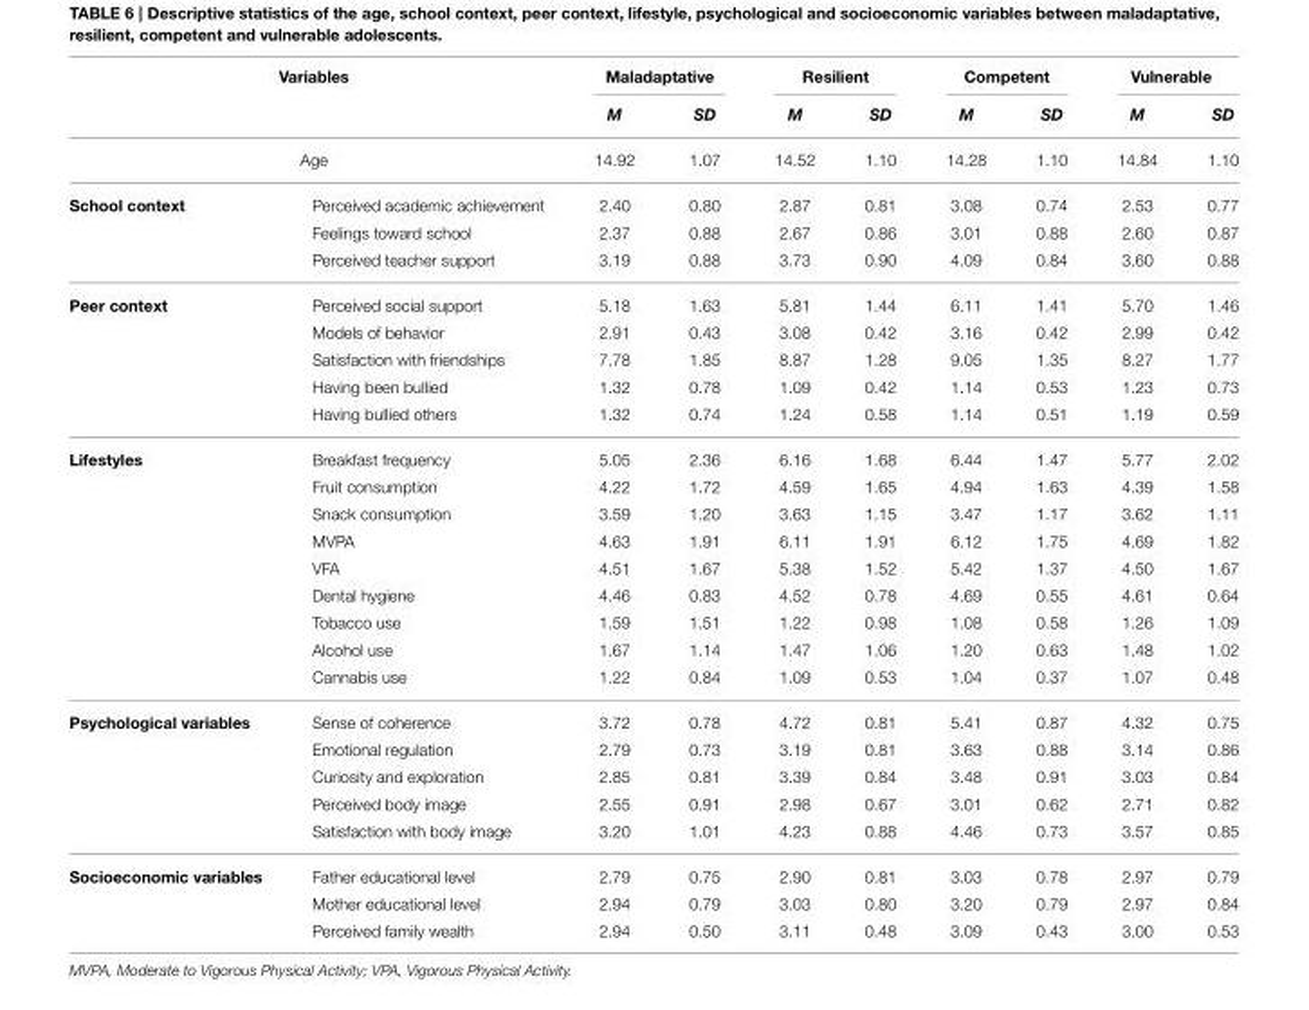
<table><thead><tr><td colspan="2">Variables</td><td colspan="2">Maladaptative</td><td colspan="2">Resilient</td><td colspan="2">Competent</td><td colspan="2">Vulnerable</td></tr><tr><td></td><td></td><td>M</td><td>SD</td><td>M</td><td>SD</td><td>M</td><td>SD</td><td>M</td><td>SD</td></tr></thead><tbody><tr><td colspan="2">Age</td><td>14.92</td><td>1.07</td><td>14.52</td><td>1.10</td><td>14.28</td><td>1.10</td><td>14.84</td><td>1.10</td></tr><tr><td rowspan="3">School context</td><td>Perceived academic achievement</td><td>2.40</td><td>0.80</td><td>2.87</td><td>0.81</td><td>3.08</td><td>0.74</td><td>2.53</td><td>0.77</td></tr><tr><td>Feelings toward school</td><td>2.37</td><td>0.88</td><td>2.67</td><td>0.86</td><td>3.01</td><td>0.88</td><td>2.60</td><td>0.87</td></tr><tr><td>Perceived teacher support</td><td>3.19</td><td>0.88</td><td>3.73</td><td>0.90</td><td>4.09</td><td>0.84</td><td>3.60</td><td>0.88</td></tr><tr><td rowspan="5">Peer context</td><td>Perceived social support</td><td>5.18</td><td>1.63</td><td>5.81</td><td>1.44</td><td>6.11</td><td>1.41</td><td>5.70</td><td>1.46</td></tr><tr><td>Models of behavior</td><td>2.91</td><td>0.43</td><td>3.08</td><td>0.42</td><td>3.16</td><td>0.42</td><td>2.99</td><td>0.42</td></tr><tr><td>Satisfaction with friendships</td><td>7.78</td><td>1.85</td><td>8.87</td><td>1.28</td><td>9.05</td><td>1.35</td><td>8.27</td><td>1.77</td></tr><tr><td>Having been bullied</td><td>1.32</td><td>0.78</td><td>1.09</td><td>0.42</td><td>1.14</td><td>0.53</td><td>1.23</td><td>0.73</td></tr><tr><td>Having bullied others</td><td>1.32</td><td>0.74</td><td>1.24</td><td>0.58</td><td>1.14</td><td>0.51</td><td>1.19</td><td>0.59</td></tr><tr><td rowspan="9">Lifestyles</td><td>Breakfast frequency</td><td>5.05</td><td>2.36</td><td>6.16</td><td>1.68</td><td>6.44</td><td>1.47</td><td>5.77</td><td>2.02</td></tr><tr><td>Fruit consumption</td><td>4.22</td><td>1.72</td><td>4.59</td><td>1.65</td><td>4.94</td><td>1.63</td><td>4.39</td><td>1.58</td></tr><tr><td>Snack consumption</td><td>3.59</td><td>1.20</td><td>3.63</td><td>1.15</td><td>3.47</td><td>1.17</td><td>3.62</td><td>1.11</td></tr><tr><td>MVPA</td><td>4.63</td><td>1.91</td><td>6.11</td><td>1.91</td><td>6.12</td><td>1.75</td><td>4.69</td><td>1.82</td></tr><tr><td>VFA</td><td>4.51</td><td>1.67</td><td>5.38</td><td>1.52</td><td>5.42</td><td>1.37</td><td>4.50</td><td>1.67</td></tr><tr><td>Dental hygiene</td><td>4.46</td><td>0.83</td><td>4.52</td><td>0.78</td><td>4.69</td><td>0.55</td><td>4.61</td><td>0.64</td></tr><tr><td>Tobacco use</td><td>1.59</td><td>1.51</td><td>1.22</td><td>0.98</td><td>1.08</td><td>0.58</td><td>1.26</td><td>1.09</td></tr><tr><td>Alcohol use</td><td>1.67</td><td>1.14</td><td>1.47</td><td>1.06</td><td>1.20</td><td>0.63</td><td>1.48</td><td>1.02</td></tr><tr><td>Cannabis use</td><td>1.22</td><td>0.84</td><td>1.09</td><td>0.53</td><td>1.04</td><td>0.37</td><td>1.07</td><td>0.48</td></tr><tr><td rowspan="5">Psychological variables</td><td>Sense of coherence</td><td>3.72</td><td>0.78</td><td>4.72</td><td>0.81</td><td>5.41</td><td>0.87</td><td>4.32</td><td>0.75</td></tr><tr><td>Emotional regulation</td><td>2.79</td><td>0.73</td><td>3.19</td><td>0.81</td><td>3.63</td><td>0.88</td><td>3.14</td><td>0.86</td></tr><tr><td>Curiosity and exploration</td><td>2.85</td><td>0.81</td><td>3.39</td><td>0.84</td><td>3.48</td><td>0.91</td><td>3.03</td><td>0.84</td></tr><tr><td>Perceived body image</td><td>2.55</td><td>0.91</td><td>2.98</td><td>0.67</td><td>3.01</td><td>0.62</td><td>2.71</td><td>0.82</td></tr><tr><td>Satisfaction with body image</td><td>3.20</td><td>1.01</td><td>4.23</td><td>0.88</td><td>4.46</td><td>0.73</td><td>3.57</td><td>0.85</td></tr><tr><td rowspan="3">Socioeconomic variables</td><td>Father educational level</td><td>2.79</td><td>0.75</td><td>2.90</td><td>0.81</td><td>3.03</td><td>0.78</td><td>2.97</td><td>0.79</td></tr><tr><td>Mother educational level</td><td>2.94</td><td>0.79</td><td>3.03</td><td>0.80</td><td>3.20</td><td>0.79</td><td>2.97</td><td>0.84</td></tr><tr><td>Perceived family wealth</td><td>2.94</td><td>0.50</td><td>3.11</td><td>0.48</td><td>3.09</td><td>0.43</td><td>3.00</td><td>0.53</td></tr></tbody></table>